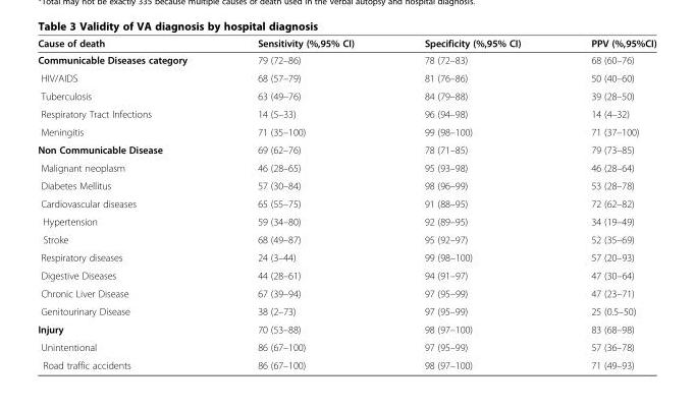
<table><thead><tr><td>Cause of death</td><td>Sensitivity (%,95% CI)</td><td>Specificity (%,95% CI)</td><td>PPV (%,95%CI)</td></tr></thead><tbody><tr><td>Communicable Diseases category</td><td>79 (72–86)</td><td>78 (72–83)</td><td>68 (60–76)</td></tr><tr><td>HIV/AIDS</td><td>68 (57–79)</td><td>81 (76–86)</td><td>50 (40–60)</td></tr><tr><td>Tuberculosis</td><td>63 (49–76)</td><td>84 (79–88)</td><td>39 (28–50)</td></tr><tr><td>Respiratory Tract Infections</td><td>14 (5–33)</td><td>96 (94–98)</td><td>14 (4–32)</td></tr><tr><td>Meningitis</td><td>71 (35–100)</td><td>99 (98–100)</td><td>71 (37–100)</td></tr><tr><td>Non Communicable Disease</td><td>69 (62–76)</td><td>78 (71–85)</td><td>79 (73–85)</td></tr><tr><td>Malignant neoplasm</td><td>46 (28–65)</td><td>95 (93–98)</td><td>46 (28–64)</td></tr><tr><td>Diabetes Mellitus</td><td>57 (30–84)</td><td>98 (96–99)</td><td>53 (28–78)</td></tr><tr><td>Cardiovascular diseases</td><td>65 (55–75)</td><td>91 (88–95)</td><td>72 (62–82)</td></tr><tr><td>Hypertension</td><td>59 (34–80)</td><td>92 (89–95)</td><td>34 (19–49)</td></tr><tr><td>Stroke</td><td>68 (49–87)</td><td>95 (92–97)</td><td>52 (35–69)</td></tr><tr><td>Respiratory diseases</td><td>24 (3–44)</td><td>99 (98–100)</td><td>57 (20–93)</td></tr><tr><td>Digestive Diseases</td><td>44 (28–61)</td><td>94 (91–97)</td><td>47 (30–64)</td></tr><tr><td>Chronic Liver Disease</td><td>67 (39–94)</td><td>97 (95–99)</td><td>47 (23–71)</td></tr><tr><td>Genitourinary Disease</td><td>38 (2–73)</td><td>97 (95–99)</td><td>25 (0.5–50)</td></tr><tr><td>Injury</td><td>70 (53–88)</td><td>98 (97–100)</td><td>83 (68–98)</td></tr><tr><td>Unintentional</td><td>86 (67–100)</td><td>97 (95–99)</td><td>57 (36–78)</td></tr><tr><td>Road traffic accidents</td><td>86 (67–100)</td><td>98 (97–100)</td><td>71 (49–93)</td></tr></tbody></table>